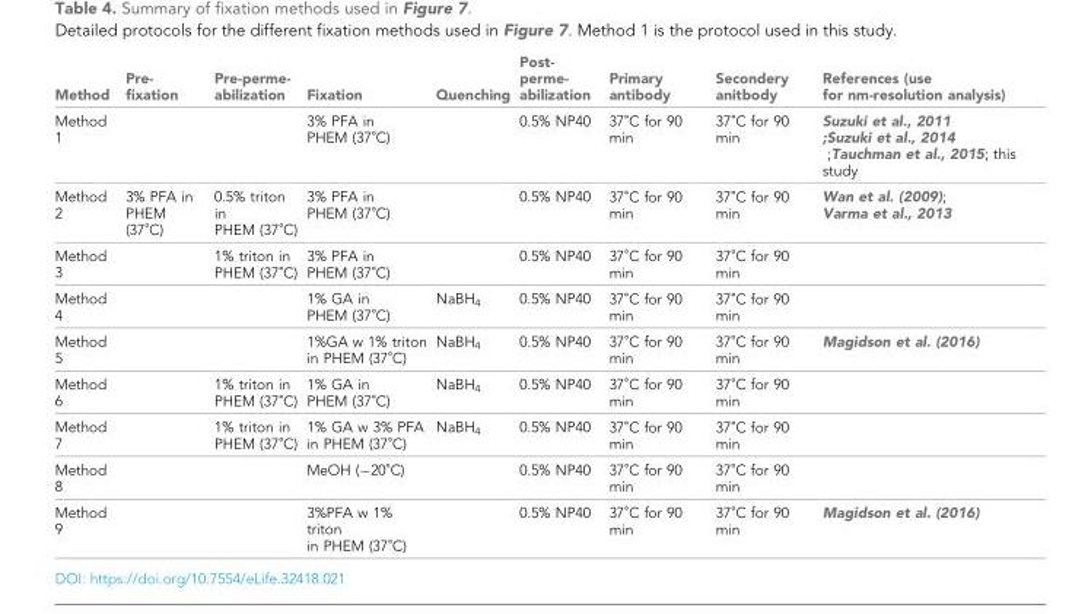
<table><thead><tr><td>Method</td><td>Pre- fixation</td><td>Pre-perme- abilization</td><td>Fixation</td><td>Quenching</td><td>Post- perme- abilization</td><td>Primary antibody</td><td>Secondery anitbody</td><td>References (use for nm-resolution analysis)</td></tr></thead><tbody><tr><td>Method 1</td><td></td><td></td><td>3% PFA in PHEM (37˚C)</td><td></td><td>0.5% NP40</td><td>37˚C for 90 min</td><td>37˚C for 90 min</td><td>Suzuki et al., 2011 ;Suzuki et al., 2014 ;Tauchman et al., 2015; this study</td></tr><tr><td>Method 2</td><td>3% PFA in PHEM (37˚C)</td><td>0.5% triton in PHEM (37˚C)</td><td>3% PFA in PHEM (37˚C)</td><td></td><td>0.5% NP40</td><td>37˚C for 90 min</td><td>37˚C for 90 min</td><td>Wan et al. (2009); Varma et al., 2013</td></tr><tr><td>Method 3</td><td></td><td>1% triton in PHEM (37˚C)</td><td>3% PFA in PHEM (37˚C)</td><td></td><td>0.5% NP40</td><td>37˚C for 90 min</td><td>37˚C for 90 min</td><td></td></tr><tr><td>Method 4</td><td></td><td></td><td>1% GA in PHEM (37˚C)</td><td>NaBH<sub>4</sub></td><td>0.5% NP40</td><td>37˚C for 90 min</td><td>37˚C for 90 min</td><td></td></tr><tr><td>Method 5</td><td></td><td></td><td>1%GA w 1% triton in PHEM (37˚C)</td><td>NaBH<sub>4</sub></td><td>0.5% NP40</td><td>37˚C for 90 min</td><td>37˚C for 90 min</td><td>Magidson et al. (2016)</td></tr><tr><td>Method 6</td><td></td><td>1% triton in PHEM (37˚C)</td><td>1% GA in PHEM (37˚C)</td><td>NaBH<sub>4</sub></td><td>0.5% NP40</td><td>37˚C for 90 min</td><td>37˚C for 90 min</td><td></td></tr><tr><td>Method 7</td><td></td><td>1% triton in PHEM (37˚C)</td><td>1% GA w 3% PFA in PHEM (37˚C)</td><td>NaBH<sub>4</sub></td><td>0.5% NP40</td><td>37˚C for 90 min</td><td>37˚C for 90 min</td><td></td></tr><tr><td>Method 8</td><td></td><td></td><td>MeOH (−20˚C)</td><td></td><td>0.5% NP40</td><td>37˚C for 90 min</td><td>37˚C for 90 min</td><td></td></tr><tr><td>Method 9</td><td></td><td></td><td>3%PFA w 1% triton in PHEM (37˚C)</td><td></td><td>0.5% NP40</td><td>37˚C for 90 min</td><td>37˚C for 90 min</td><td>Magidson et al. (2016)</td></tr></tbody></table>